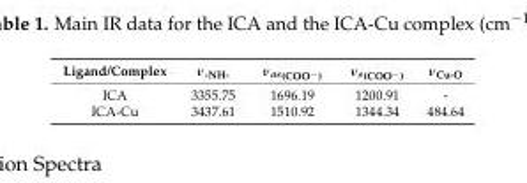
<table><thead><tr><td>Ligand/Complex</td><td>ν<sub>-NH-</sub></td><td>ν<sub>as(COO</sub><sup><sub>−</sub></sup><sub>)</sub></td><td>ν<sub>s(COO</sub><sup><sub>−</sub></sup><sub>)</sub></td><td>ν<sub>Cu-O</sub></td></tr></thead><tbody><tr><td>ICA</td><td>3355.75</td><td>1696.19</td><td>1200.91</td><td>-</td></tr><tr><td>ICA-Cu</td><td>3437.61</td><td>1510.92</td><td>1344.34</td><td>484.64</td></tr></tbody></table>